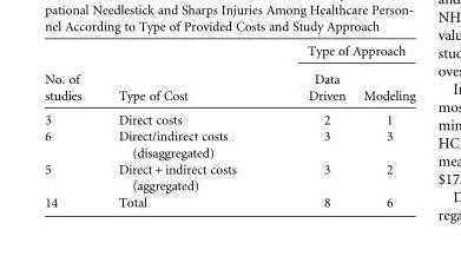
<table><thead><tr><td rowspan="2">No. of studies</td><td rowspan="2">Type of Cost</td><td colspan="2">Type of Approach</td></tr><tr><td>Data Driven</td><td>Modeling</td></tr></thead><tbody><tr><td>3</td><td>Direct costs</td><td>2</td><td>1</td></tr><tr><td>6</td><td>Direct/indirect costs (disaggregated)</td><td>3</td><td>3</td></tr><tr><td>5</td><td>Direct + indirect costs (aggregated)</td><td>3</td><td>2</td></tr><tr><td>14</td><td>Total</td><td>8</td><td>6</td></tr></tbody></table>